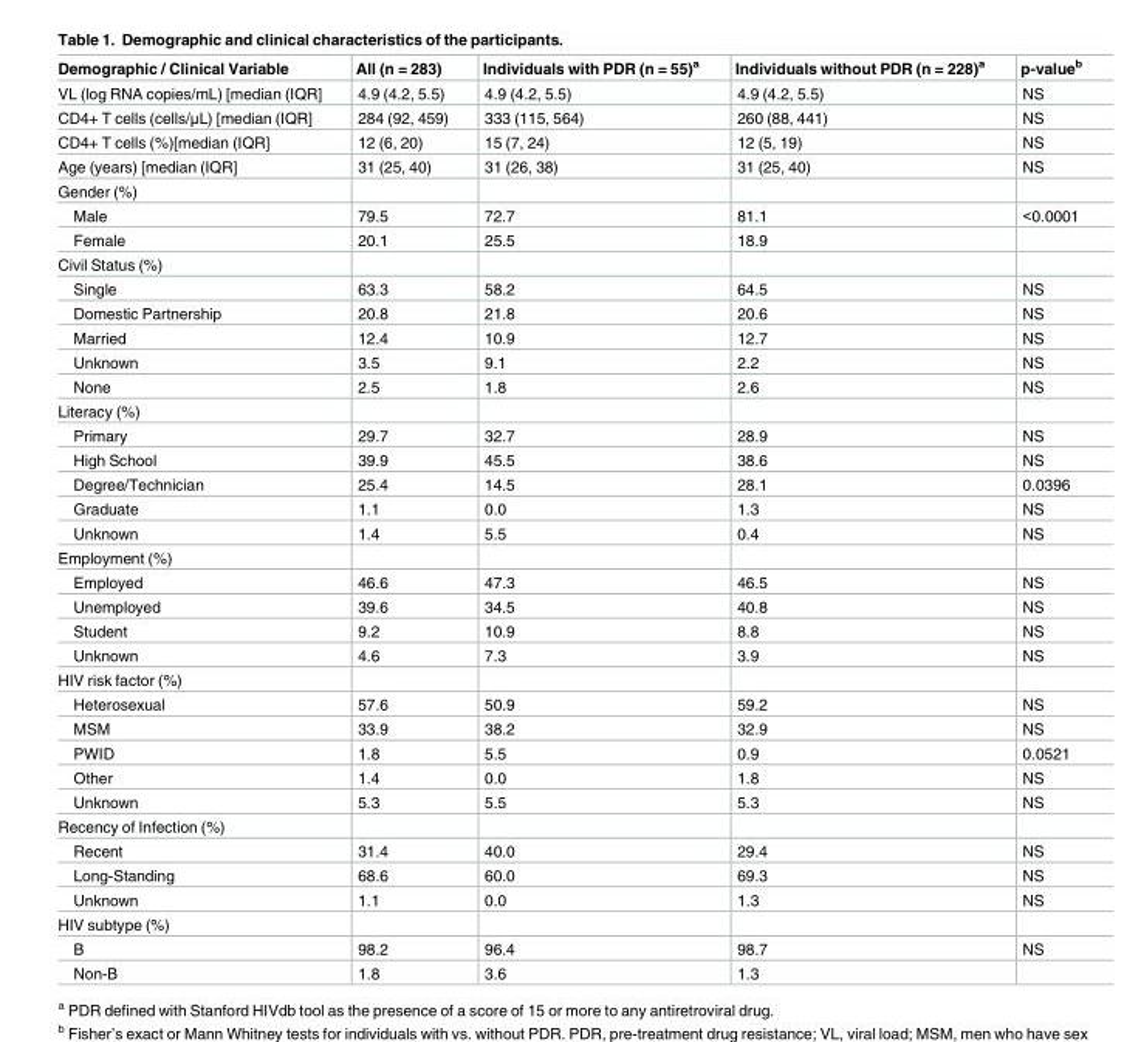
<table><thead><tr><td>Demographic / Clinical Variable</td><td>All (n = 283)</td><td>Individuals with PDR (n = 55)<sup>a</sup></td><td>Individuals without PDR (n = 228)<sup>a</sup></td><td>p-value<sup>b</sup></td></tr></thead><tbody><tr><td>VL (log RNA copies/mL) [median (IQR]</td><td>4.9 (4.2, 5.5)</td><td>4.9 (4.2, 5.5)</td><td>4.9 (4.2, 5.5)</td><td>NS</td></tr><tr><td>CD4+ T cells (cells/μL) [median (IQR]</td><td>284 (92, 459)</td><td>333 (115, 564)</td><td>260 (88, 441)</td><td>NS</td></tr><tr><td>CD4+ T cells (%)[median (IQR]</td><td>12 (6, 20)</td><td>15 (7, 24)</td><td>12 (5, 19)</td><td>NS</td></tr><tr><td>Age (years) [median (IQR]</td><td>31 (25, 40)</td><td>31 (26, 38)</td><td>31 (25, 40)</td><td>NS</td></tr><tr><td colspan="5">Gender (%)</td></tr><tr><td>Male</td><td>79.5</td><td>72.7</td><td>81.1</td><td>&lt;0.0001</td></tr><tr><td>Female</td><td>20.1</td><td>25.5</td><td>18.9</td><td></td></tr><tr><td colspan="5">Civil Status (%)</td></tr><tr><td>Single</td><td>63.3</td><td>58.2</td><td>64.5</td><td>NS</td></tr><tr><td>Domestic Partnership</td><td>20.8</td><td>21.8</td><td>20.6</td><td>NS</td></tr><tr><td>Married</td><td>12.4</td><td>10.9</td><td>12.7</td><td>NS</td></tr><tr><td>Unknown</td><td>3.5</td><td>9.1</td><td>2.2</td><td>NS</td></tr><tr><td>None</td><td>2.5</td><td>1.8</td><td>2.6</td><td>NS</td></tr><tr><td colspan="5">Literacy (%)</td></tr><tr><td>Primary</td><td>29.7</td><td>32.7</td><td>28.9</td><td>NS</td></tr><tr><td>High School</td><td>39.9</td><td>45.5</td><td>38.6</td><td>NS</td></tr><tr><td>Degree/Technician</td><td>25.4</td><td>14.5</td><td>28.1</td><td>0.0396</td></tr><tr><td>Graduate</td><td>1.1</td><td>0.0</td><td>1.3</td><td>NS</td></tr><tr><td>Unknown</td><td>1.4</td><td>5.5</td><td>0.4</td><td>NS</td></tr><tr><td colspan="5">Employment (%)</td></tr><tr><td>Employed</td><td>46.6</td><td>47.3</td><td>46.5</td><td>NS</td></tr><tr><td>Unemployed</td><td>39.6</td><td>34.5</td><td>40.8</td><td>NS</td></tr><tr><td>Student</td><td>9.2</td><td>10.9</td><td>8.8</td><td>NS</td></tr><tr><td>Unknown</td><td>4.6</td><td>7.3</td><td>3.9</td><td>NS</td></tr><tr><td colspan="5">HIV risk factor (%)</td></tr><tr><td>Heterosexual</td><td>57.6</td><td>50.9</td><td>59.2</td><td>NS</td></tr><tr><td>MSM</td><td>33.9</td><td>38.2</td><td>32.9</td><td>NS</td></tr><tr><td>PWID</td><td>1.8</td><td>5.5</td><td>0.9</td><td>0.0521</td></tr><tr><td>Other</td><td>1.4</td><td>0.0</td><td>1.8</td><td>NS</td></tr><tr><td>Unknown</td><td>5.3</td><td>5.5</td><td>5.3</td><td>NS</td></tr><tr><td colspan="5">Recency of Infection (%)</td></tr><tr><td>Recent</td><td>31.4</td><td>40.0</td><td>29.4</td><td>NS</td></tr><tr><td>Long-Standing</td><td>68.6</td><td>60.0</td><td>69.3</td><td>NS</td></tr><tr><td>Unknown</td><td>1.1</td><td>0.0</td><td>1.3</td><td>NS</td></tr><tr><td colspan="5">HIV subtype (%)</td></tr><tr><td>B</td><td>98.2</td><td>96.4</td><td>98.7</td><td>NS</td></tr><tr><td>Non-B</td><td>1.8</td><td>3.6</td><td>1.3</td><td></td></tr></tbody></table>